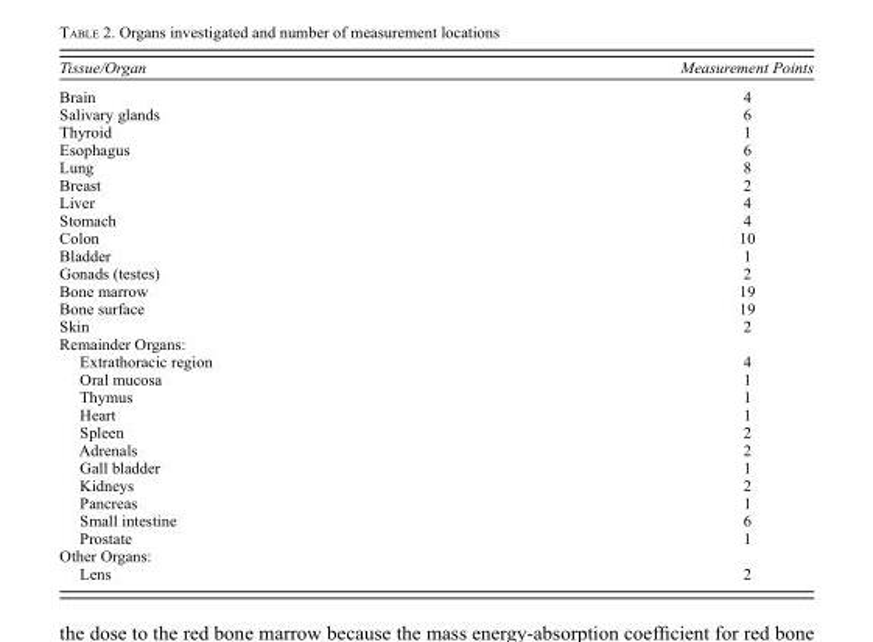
<table><thead><tr><td>Tissue/Organ</td><td>Measurement Points</td></tr></thead><tbody><tr><td>Brain</td><td>4</td></tr><tr><td>Salivary glands</td><td>6</td></tr><tr><td>Thyroid</td><td>1</td></tr><tr><td>Esophagus</td><td>6</td></tr><tr><td>Lung</td><td>8</td></tr><tr><td>Breast</td><td>2</td></tr><tr><td>Liver</td><td>4</td></tr><tr><td>Stomach</td><td>4</td></tr><tr><td>Colon</td><td>10</td></tr><tr><td>Bladder</td><td>1</td></tr><tr><td>Gonads (testes)</td><td>2</td></tr><tr><td>Bone marrow</td><td>19</td></tr><tr><td>Bone surface</td><td>19</td></tr><tr><td>Skin</td><td>2</td></tr><tr><td colspan="2">Remainder Organs:</td></tr><tr><td>Extrathoracic region</td><td>4</td></tr><tr><td>Oral mucosa</td><td>1</td></tr><tr><td>Thymus</td><td>1</td></tr><tr><td>Heart</td><td>1</td></tr><tr><td>Spleen</td><td>2</td></tr><tr><td>Adrenals</td><td>2</td></tr><tr><td>Gall bladder</td><td>1</td></tr><tr><td>Kidneys</td><td>2</td></tr><tr><td>Pancreas</td><td>1</td></tr><tr><td>Small intestine</td><td>6</td></tr><tr><td>Prostate</td><td>1</td></tr><tr><td colspan="2">Other Organs:</td></tr><tr><td>Lens</td><td>2</td></tr></tbody></table>